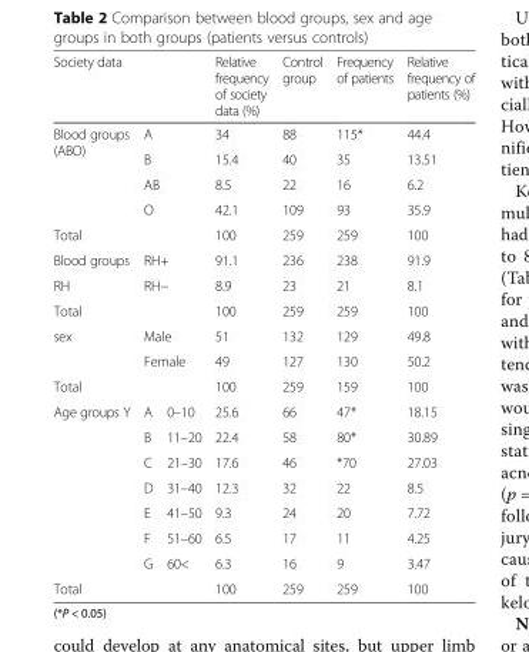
<table><thead><tr><td colspan="3">Society data</td><td>Relative frequency of society data (%)</td><td>Control group</td><td>Frequency of patients</td><td>Relative frequency of patients (%)</td></tr></thead><tbody><tr><td rowspan="4">Blood groups (ABO)</td><td colspan="2">A</td><td>34</td><td>88</td><td>115*</td><td>44.4</td></tr><tr><td colspan="2">B</td><td>15.4</td><td>40</td><td>35</td><td>13.51</td></tr><tr><td colspan="2">AB</td><td>8.5</td><td>22</td><td>16</td><td>6.2</td></tr><tr><td colspan="2">O</td><td>42.1</td><td>109</td><td>93</td><td>35.9</td></tr><tr><td colspan="3">Total</td><td>100</td><td>259</td><td>259</td><td>100</td></tr><tr><td>Blood groups</td><td colspan="2">RH+</td><td>91.1</td><td>236</td><td>238</td><td>91.9</td></tr><tr><td>RH</td><td colspan="2">RH−</td><td>8.9</td><td>23</td><td>21</td><td>8.1</td></tr><tr><td colspan="3">Total</td><td>100</td><td>259</td><td>259</td><td>100</td></tr><tr><td rowspan="2">sex</td><td colspan="2">Male</td><td>51</td><td>132</td><td>129</td><td>49.8</td></tr><tr><td colspan="2">Female</td><td>49</td><td>127</td><td>130</td><td>50.2</td></tr><tr><td colspan="3">Total</td><td>100</td><td>259</td><td>159</td><td>100</td></tr><tr><td rowspan="7">Age groups Y</td><td>A</td><td>0–10</td><td>25.6</td><td>66</td><td>47*</td><td>18.15</td></tr><tr><td>B</td><td>11–20</td><td>22.4</td><td>58</td><td>80*</td><td>30.89</td></tr><tr><td>C</td><td>21–30</td><td>17.6</td><td>46</td><td>*70</td><td>27.03</td></tr><tr><td>D</td><td>31–40</td><td>12.3</td><td>32</td><td>22</td><td>8.5</td></tr><tr><td>E</td><td>41–50</td><td>9.3</td><td>24</td><td>20</td><td>7.72</td></tr><tr><td>F</td><td>51–60</td><td>6.5</td><td>17</td><td>11</td><td>4.25</td></tr><tr><td>G</td><td>60&lt;</td><td>6.3</td><td>16</td><td>9</td><td>3.47</td></tr><tr><td colspan="3">Total</td><td>100</td><td>259</td><td>259</td><td>100</td></tr></tbody></table>